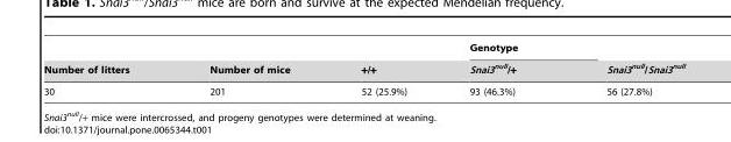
<table><thead><tr><td rowspan="2">Number of litters</td><td rowspan="2">Number of mice</td><td rowspan="2">+/+</td><td rowspan="2">Genotype Snai3<sup>null</sup>/+</td><td rowspan="2">Snai3<sup>null</sup>/Snai3<sup>null</sup></td></tr><tr></tr></thead><tbody><tr><td>30</td><td>201</td><td>52 (25.9%)</td><td>93 (46.3%)</td><td>56 (27.8%)</td></tr></tbody></table>